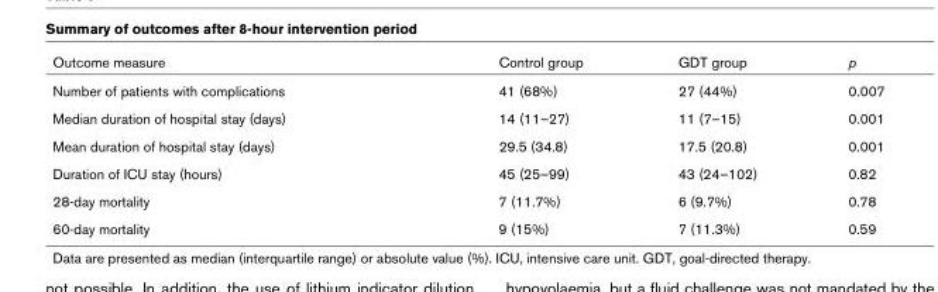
<table><thead><tr><td>Outcome measure</td><td>Control group</td><td>GDT group</td><td>p</td></tr></thead><tbody><tr><td>Number of patients with complications</td><td>41 (68%)</td><td>27 (44%)</td><td>0.007</td></tr><tr><td>Median duration of hospital stay (days)</td><td>14 (11–27)</td><td>11 (7–15)</td><td>0.001</td></tr><tr><td>Mean duration of hospital stay (days)</td><td>29.5 (34.8)</td><td>17.5 (20.8)</td><td>0.001</td></tr><tr><td>Duration of ICU stay (hours)</td><td>45 (25–99)</td><td>43 (24–102)</td><td>0.82</td></tr><tr><td>28-day mortality</td><td>7 (11.7%)</td><td>6 (9.7%)</td><td>0.78</td></tr><tr><td>60-day mortality</td><td>9 (15%)</td><td>7 (11.3%)</td><td>0.59</td></tr></tbody></table>